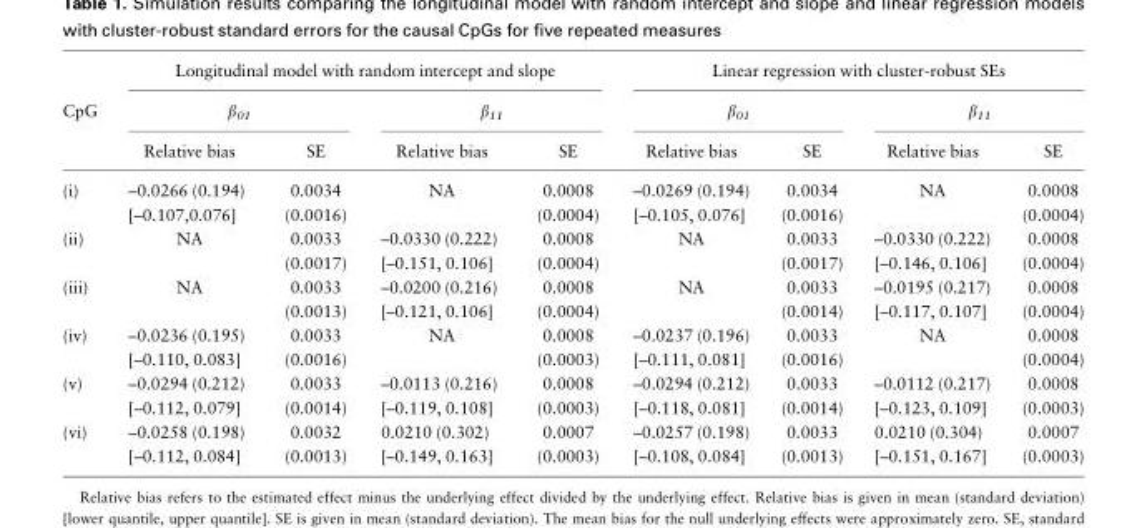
<table><thead><tr><td rowspan="3">CpG</td><td colspan="4">Longitudinal model with random intercept and slope</td><td colspan="4">Linear regression with cluster-robust SEs</td></tr><tr><td colspan="2">β<sub>01</sub></td><td colspan="2">β<sub>11</sub></td><td colspan="2">β<sub>01</sub></td><td colspan="2">β<sub>11</sub></td></tr><tr><td>Relative bias</td><td>SE</td><td>Relative bias</td><td>SE</td><td>Relative bias</td><td>SE</td><td>Relative bias</td><td>SE</td></tr></thead><tbody><tr><td rowspan="2">(i)</td><td>–0.0266 (0.194)</td><td>0.0034</td><td rowspan="2">NA</td><td>0.0008</td><td>–0.0269 (0.194)</td><td>0.0034</td><td rowspan="2">NA</td><td>0.0008</td></tr><tr><td>[–0.107,0.076]</td><td>(0.0016)</td><td>(0.0004)</td><td>[–0.105, 0.076]</td><td>(0.0016)</td><td>(0.0004)</td></tr><tr><td rowspan="2">(ii)</td><td rowspan="2">NA</td><td>0.0033</td><td>–0.0330 (0.222)</td><td>0.0008</td><td rowspan="2">NA</td><td>0.0033</td><td>–0.0330 (0.222)</td><td>0.0008</td></tr><tr><td>(0.0017)</td><td>[–0.151, 0.106]</td><td>(0.0004)</td><td>(0.0017)</td><td>[–0.146, 0.106]</td><td>(0.0004)</td></tr><tr><td rowspan="2">(iii)</td><td rowspan="2">NA</td><td>0.0033</td><td>–0.0200 (0.216)</td><td>0.0008</td><td rowspan="2">NA</td><td>0.0033</td><td>–0.0195 (0.217)</td><td>0.0008</td></tr><tr><td>(0.0013)</td><td>[–0.121, 0.106]</td><td>(0.0004)</td><td>(0.0014)</td><td>[–0.117, 0.107]</td><td>(0.0004)</td></tr><tr><td rowspan="2">(iv)</td><td>–0.0236 (0.195)</td><td>0.0033</td><td rowspan="2">NA</td><td>0.0008</td><td>–0.0237 (0.196)</td><td>0.0033</td><td rowspan="2">NA</td><td>0.0008</td></tr><tr><td>[–0.110, 0.083]</td><td>(0.0016)</td><td>(0.0003)</td><td>[–0.111, 0.081]</td><td>(0.0016)</td><td>(0.0004)</td></tr><tr><td rowspan="2">(v)</td><td>–0.0294 (0.212)</td><td>0.0033</td><td>–0.0113 (0.216)</td><td>0.0008</td><td>–0.0294 (0.212)</td><td>0.0033</td><td>–0.0112 (0.217)</td><td>0.0008</td></tr><tr><td>[–0.112, 0.079]</td><td>(0.0014)</td><td>[–0.119, 0.108]</td><td>(0.0003)</td><td>[–0.118, 0.081]</td><td>(0.0014)</td><td>[–0.123, 0.109]</td><td>(0.0003)</td></tr><tr><td rowspan="2">(vi)</td><td>–0.0258 (0.198)</td><td>0.0032</td><td>0.0210 (0.302)</td><td>0.0007</td><td>–0.0257 (0.198)</td><td>0.0033</td><td>0.0210 (0.304)</td><td>0.0007</td></tr><tr><td>[–0.112, 0.084]</td><td>(0.0013)</td><td>[–0.149, 0.163]</td><td>(0.0003)</td><td>[–0.108, 0.084]</td><td>(0.0013)</td><td>[–0.151, 0.167]</td><td>(0.0003)</td></tr></tbody></table>